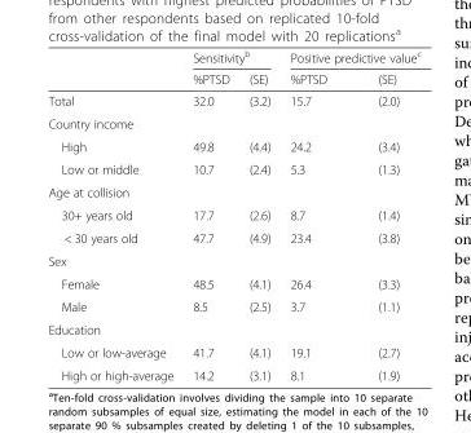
<table><thead><tr><td rowspan="2"></td><td colspan="2">Sensitivity<sup>b</sup></td><td colspan="2">Positive predictive value<sup>c</sup></td></tr><tr><td>%PTSD</td><td>(SE)</td><td>%PTSD</td><td>(SE)</td></tr></thead><tbody><tr><td>Total</td><td>32.0</td><td>(3.2)</td><td>15.7</td><td>(2.0)</td></tr><tr><td colspan="5">Country income</td></tr><tr><td>High</td><td>49.8</td><td>(4.4)</td><td>24.2</td><td>(3.4)</td></tr><tr><td>Low or middle</td><td>10.7</td><td>(2.4)</td><td>5.3</td><td>(1.3)</td></tr><tr><td colspan="5">Age at collision</td></tr><tr><td>30+ years old</td><td>17.7</td><td>(2.6)</td><td>8.7</td><td>(1.4)</td></tr><tr><td>&lt; 30 years old</td><td>47.7</td><td>(4.9)</td><td>23.4</td><td>(3.8)</td></tr><tr><td colspan="5">Sex</td></tr><tr><td>Female</td><td>48.5</td><td>(4.1)</td><td>26.4</td><td>(3.3)</td></tr><tr><td>Male</td><td>8.5</td><td>(2.5)</td><td>3.7</td><td>(1.1)</td></tr><tr><td colspan="5">Education</td></tr><tr><td>Low or low-average</td><td>41.7</td><td>(4.1)</td><td>19.1</td><td>(2.7)</td></tr><tr><td>High or high-average</td><td>14.2</td><td>(3.1)</td><td>8.1</td><td>(1.9)</td></tr></tbody></table>